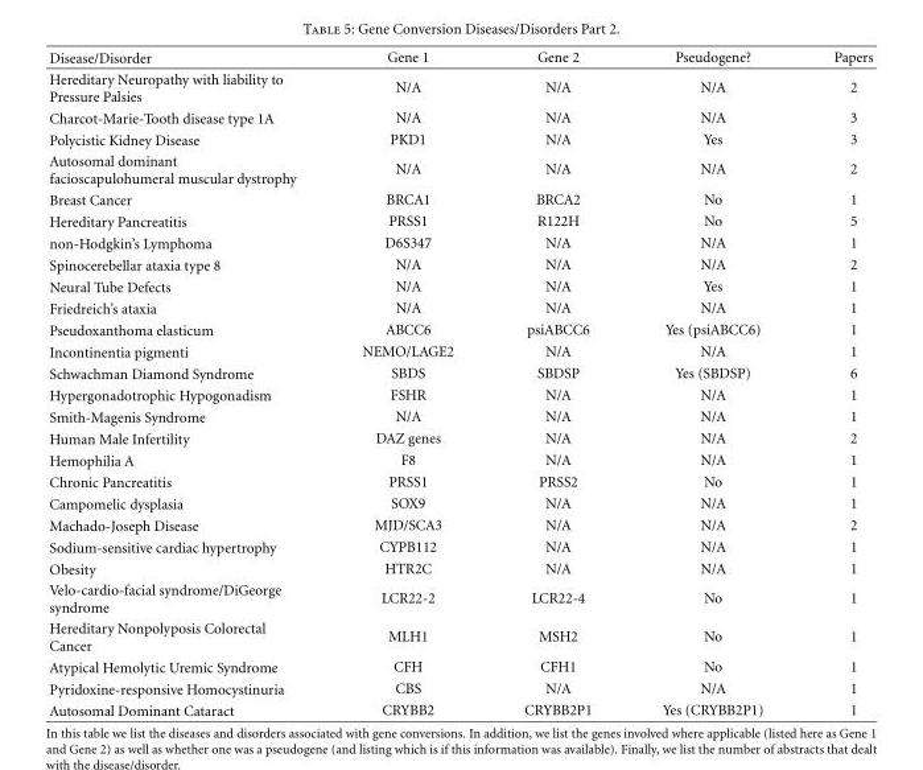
<table><thead><tr><td>Disease/Disorder</td><td>Gene 1</td><td>Gene 2</td><td>Pseudogene?</td><td>Papers</td></tr></thead><tbody><tr><td>Hereditary Neuropathy with liability to Pressure Palsies</td><td>N/A</td><td>N/A</td><td>N/A</td><td>2</td></tr><tr><td>Charcot-Marie-Tooth disease type 1A</td><td>N/A</td><td>N/A</td><td>N/A</td><td>3</td></tr><tr><td>Polycistic Kidney Disease</td><td>PKD1</td><td>N/A</td><td>Yes</td><td>3</td></tr><tr><td>Autosomal dominant facioscapulohumeral muscular dystrophy</td><td>N/A</td><td>N/A</td><td>N/A</td><td>2</td></tr><tr><td>Breast Cancer</td><td>BRCA1</td><td>BRCA2</td><td>No</td><td>1</td></tr><tr><td>Hereditary Pancreatitis</td><td>PRSS1</td><td>R122H</td><td>No</td><td>5</td></tr><tr><td>non-Hodgkin’s Lymphoma</td><td>D6S347</td><td>N/A</td><td>N/A</td><td>1</td></tr><tr><td>Spinocerebellar ataxia type 8</td><td>N/A</td><td>N/A</td><td>N/A</td><td>2</td></tr><tr><td>Neural Tube Defects</td><td>N/A</td><td>N/A</td><td>Yes</td><td>1</td></tr><tr><td>Friedreich’s ataxia</td><td>N/A</td><td>N/A</td><td>N/A</td><td>1</td></tr><tr><td>Pseudoxanthoma elasticum</td><td>ABCC6</td><td>psiABCC6</td><td>Yes (psiABCC6)</td><td>1</td></tr><tr><td>Incontinentia pigmenti</td><td>NEMO/LAGE2</td><td>N/A</td><td>N/A</td><td>1</td></tr><tr><td>Schwachman Diamond Syndrome</td><td>SBDS</td><td>SBDSP</td><td>Yes (SBDSP)</td><td>6</td></tr><tr><td>Hypergonadotrophic Hypogonadism</td><td>FSHR</td><td>N/A</td><td>N/A</td><td>1</td></tr><tr><td>Smith-Magenis Syndrome</td><td>N/A</td><td>N/A</td><td>N/A</td><td>1</td></tr><tr><td>Human Male Infertility</td><td>DAZ genes</td><td>N/A</td><td>N/A</td><td>2</td></tr><tr><td>Hemophilia A</td><td>F8</td><td>N/A</td><td>N/A</td><td>1</td></tr><tr><td>Chronic Pancreatitis</td><td>PRSS1</td><td>PRSS2</td><td>No</td><td>1</td></tr><tr><td>Campomelic dysplasia</td><td>SOX9</td><td>N/A</td><td>N/A</td><td>1</td></tr><tr><td>Machado-Joseph Disease</td><td>MJD/SCA3</td><td>N/A</td><td>N/A</td><td>2</td></tr><tr><td>Sodium-sensitive cardiac hypertrophy</td><td>CYPB112</td><td>N/A</td><td>N/A</td><td>1</td></tr><tr><td>Obesity</td><td>HTR2C</td><td>N/A</td><td>N/A</td><td>1</td></tr><tr><td>Velo-cardio-facial syndrome/DiGeorge syndrome</td><td>LCR22-2</td><td>LCR22-4</td><td>No</td><td>1</td></tr><tr><td>Hereditary Nonpolyposis Colorectal Cancer</td><td>MLH1</td><td>MSH2</td><td>No</td><td>1</td></tr><tr><td>Atypical Hemolytic Uremic Syndrome</td><td>CFH</td><td>CFH1</td><td>No</td><td>1</td></tr><tr><td>Pyridoxine-responsive Homocystinuria</td><td>CBS</td><td>N/A</td><td>N/A</td><td>1</td></tr><tr><td>Autosomal Dominant Cataract</td><td>CRYBB2</td><td>CRYBB2P1</td><td>Yes (CRYBB2P1)</td><td>1</td></tr></tbody></table>